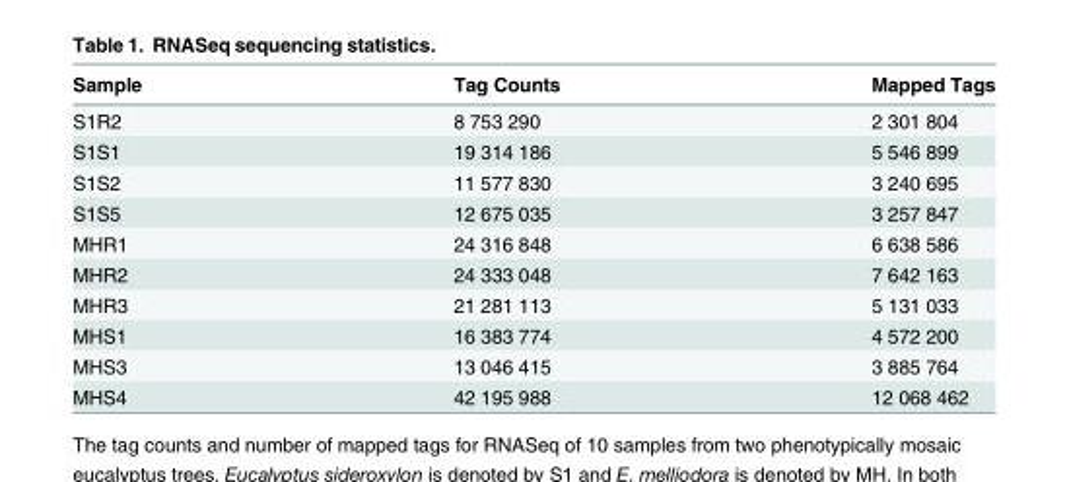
<table><thead><tr><td>Sample</td><td>Tag Counts</td><td>Mapped Tags</td></tr></thead><tbody><tr><td>S1R2</td><td>8 753 290</td><td>2 301 804</td></tr><tr><td>S1S1</td><td>19 314 186</td><td>5 546 899</td></tr><tr><td>S1S2</td><td>11 577 830</td><td>3 240 695</td></tr><tr><td>S1S5</td><td>12 675 035</td><td>3 257 847</td></tr><tr><td>MHR1</td><td>24 316 848</td><td>6 638 586</td></tr><tr><td>MHR2</td><td>24 333 048</td><td>7 642 163</td></tr><tr><td>MHR3</td><td>21 281 113</td><td>5 131 033</td></tr><tr><td>MHS1</td><td>16 383 774</td><td>4 572 200</td></tr><tr><td>MHS3</td><td>13 046 415</td><td>3 885 764</td></tr><tr><td>MHS4</td><td>42 195 988</td><td>12 068 462</td></tr></tbody></table>